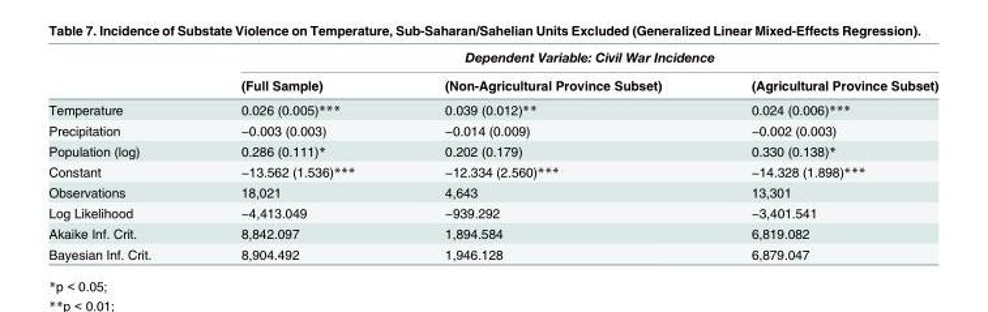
<table><thead><tr><td rowspan="2"></td><td colspan="3">Dependent Variable: Civil War Incidence</td></tr><tr><td>(Full Sample)</td><td>(Non-Agricultural Province Subset)</td><td>(Agricultural Province Subset)</td></tr></thead><tbody><tr><td>Temperature</td><td>0.026 (0.005)***</td><td>0.039 (0.012)**</td><td>0.024 (0.006)***</td></tr><tr><td>Precipitation</td><td>−0.003 (0.003)</td><td>−0.014 (0.009)</td><td>−0.002 (0.003)</td></tr><tr><td>Population (log)</td><td>0.286 (0.111)*</td><td>0.202 (0.179)</td><td>0.330 (0.138)*</td></tr><tr><td>Constant</td><td>−13.562 (1.536)***</td><td>−12.334 (2.560)***</td><td>−14.328 (1.898)***</td></tr><tr><td>Observations</td><td>18,021</td><td>4,643</td><td>13,301</td></tr><tr><td>Log Likelihood</td><td>−4,413.049</td><td>−939.292</td><td>−3,401.541</td></tr><tr><td>Akaike Inf. Crit.</td><td>8,842.097</td><td>1,894.584</td><td>6,819.082</td></tr><tr><td>Bayesian Inf. Crit.</td><td>8,904.492</td><td>1,946.128</td><td>6,879.047</td></tr></tbody></table>